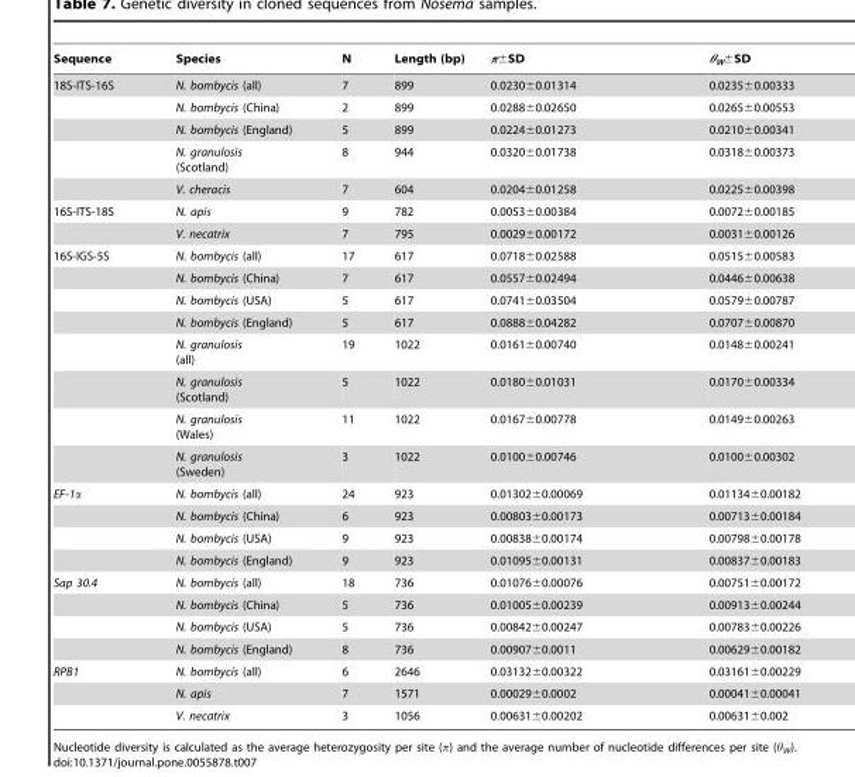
<table><thead><tr><td>Sequence</td><td>Species</td><td>N</td><td>Length (bp)</td><td>π±SD</td><td>θ<sub>W</sub>±SD</td></tr></thead><tbody><tr><td rowspan="5">18S-ITS-16S</td><td>N. bombycis (all)</td><td>7</td><td>899</td><td>0.0230±0.01314</td><td>0.0235±0.00333</td></tr><tr><td>N. bombycis (China)</td><td>2</td><td>899</td><td>0.0288±0.02650</td><td>0.0265±0.00553</td></tr><tr><td>N. bombycis (England)</td><td>5</td><td>899</td><td>0.0224±0.01273</td><td>0.0210±0.00341</td></tr><tr><td>N. granulosis (Scotland)</td><td>8</td><td>944</td><td>0.0320±0.01738</td><td>0.0318±0.00373</td></tr><tr><td>V. cheracis</td><td>7</td><td>604</td><td>0.0204±0.01258</td><td>0.0225±0.00398</td></tr><tr><td rowspan="2">16S-ITS-18S</td><td>N. apis</td><td>9</td><td>782</td><td>0.0053±0.00384</td><td>0.0072±0.00185</td></tr><tr><td>V. necatrix</td><td>7</td><td>795</td><td>0.0029±0.00172</td><td>0.0031±0.00126</td></tr><tr><td rowspan="8">16S-IGS-5S</td><td>N. bombycis (all)</td><td>17</td><td>617</td><td>0.0718±0.02588</td><td>0.0515±0.00583</td></tr><tr><td>N. bombycis (China)</td><td>7</td><td>617</td><td>0.0557±0.02494</td><td>0.0446±0.00638</td></tr><tr><td>N. bombycis (USA)</td><td>5</td><td>617</td><td>0.0741±0.03504</td><td>0.0579±0.00787</td></tr><tr><td>N. bombycis (England)</td><td>5</td><td>617</td><td>0.0888±0.04282</td><td>0.0707±0.00870</td></tr><tr><td>N. granulosis (all)</td><td>19</td><td>1022</td><td>0.0161±0.00740</td><td>0.0148±0.00241</td></tr><tr><td>N. granulosis (Scotland)</td><td>5</td><td>1022</td><td>0.0180±0.01031</td><td>0.0170±0.00334</td></tr><tr><td>N. granulosis (Wales)</td><td>11</td><td>1022</td><td>0.0167±0.00778</td><td>0.0149±0.00263</td></tr><tr><td>N. granulosis (Sweden)</td><td>3</td><td>1022</td><td>0.0100±0.00746</td><td>0.0100±0.00302</td></tr><tr><td rowspan="4">EF-1α</td><td>N. bombycis (all)</td><td>24</td><td>923</td><td>0.01302±0.00069</td><td>0.01134±0.00182</td></tr><tr><td>N. bombycis (China)</td><td>6</td><td>923</td><td>0.00803±0.00173</td><td>0.00713±0.00184</td></tr><tr><td>N. bombycis (USA)</td><td>9</td><td>923</td><td>0.00838±0.00174</td><td>0.00798±0.00178</td></tr><tr><td>N. bombycis (England)</td><td>9</td><td>923</td><td>0.01095±0.00131</td><td>0.00837±0.00183</td></tr><tr><td rowspan="4">Sap 30.4</td><td>N. bombycis (all)</td><td>18</td><td>736</td><td>0.01076±0.00076</td><td>0.00751±0.00172</td></tr><tr><td>N. bombycis (China)</td><td>5</td><td>736</td><td>0.01005±0.00239</td><td>0.00913±0.00244</td></tr><tr><td>N. bombycis (USA)</td><td>5</td><td>736</td><td>0.00842±0.00247</td><td>0.00783±0.00226</td></tr><tr><td>N. bombycis (England)</td><td>8</td><td>736</td><td>0.00907±0.0011</td><td>0.00629±0.00182</td></tr><tr><td rowspan="3">RPB1</td><td>N. bombycis (all)</td><td>6</td><td>2646</td><td>0.03132±0.00322</td><td>0.03161±0.00229</td></tr><tr><td>N. apis</td><td>7</td><td>1571</td><td>0.00029±0.0002</td><td>0.00041±0.00041</td></tr><tr><td>V. necatrix</td><td>3</td><td>1056</td><td>0.00631±0.00202</td><td>0.00631±0.002</td></tr></tbody></table>